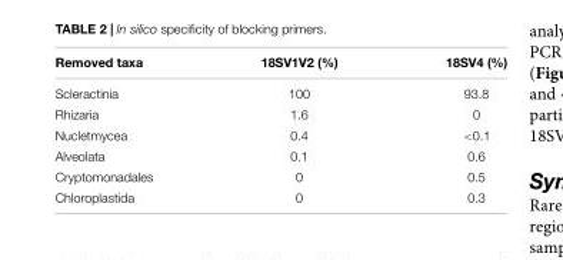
<table><thead><tr><td>Removed taxa</td><td>18SV1V2 (%)</td><td>18SV4 (%)</td></tr></thead><tbody><tr><td>Scleractinia</td><td>100</td><td>93.8</td></tr><tr><td>Rhizaria</td><td>1.6</td><td>0</td></tr><tr><td>Nucletmycea</td><td>0.4</td><td>&lt;0.1</td></tr><tr><td>Alveolata</td><td>0.1</td><td>0.6</td></tr><tr><td>Cryptomonadales</td><td>0</td><td>0.5</td></tr><tr><td>Chloroplastida</td><td>0</td><td>0.3</td></tr></tbody></table>